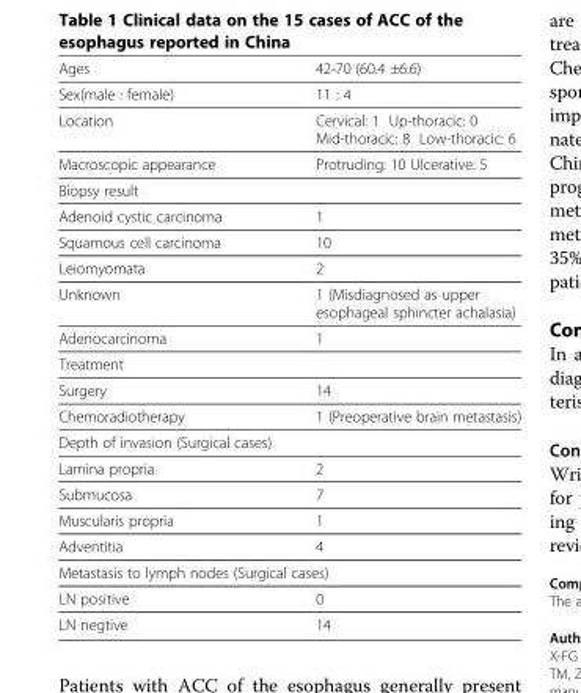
<table><tbody><tr><td>Ages</td><td>42-70 (60.4 ±6.6)</td></tr><tr><td>Sex(male : female)</td><td>11 : 4</td></tr><tr><td>Location</td><td>Cervical: 1 Up-thoracic: 0 Mid-thoracic: 8 Low-thoracic: 6</td></tr><tr><td>Macroscopic appearance</td><td>Protruding: 10 Ulcerative: 5</td></tr><tr><td colspan="2">Biopsy result</td></tr><tr><td>Adenoid cystic carcinoma</td><td>1</td></tr><tr><td>Squamous cell carcinoma</td><td>10</td></tr><tr><td>Leiomyomata</td><td>2</td></tr><tr><td>Unknown</td><td>1 (Misdiagnosed as upper esophageal sphincter achalasia)</td></tr><tr><td>Adenocarcinoma</td><td>1</td></tr><tr><td colspan="2">Treatment</td></tr><tr><td>Surgery</td><td>14</td></tr><tr><td>Chemoradiotherapy</td><td>1 (Preoperative brain metastasis)</td></tr><tr><td colspan="2">Depth of invasion (Surgical cases)</td></tr><tr><td>Lamina propria</td><td>2</td></tr><tr><td>Submucosa</td><td>7</td></tr><tr><td>Muscularis propria</td><td>1</td></tr><tr><td>Adventitia</td><td>4</td></tr><tr><td colspan="2">Metastasis to lymph nodes (Surgical cases)</td></tr><tr><td>LN positive</td><td>0</td></tr><tr><td>LN negtive</td><td>14</td></tr></tbody></table>